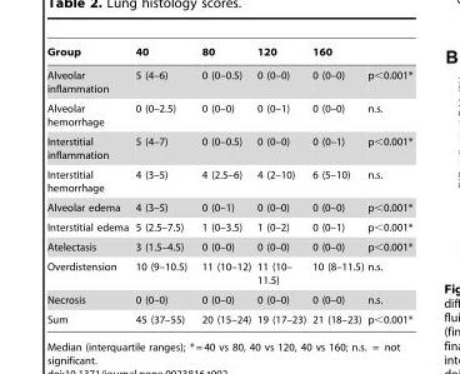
<table><thead><tr><td>Group</td><td>40</td><td>80</td><td>120</td><td>160</td><td></td></tr></thead><tbody><tr><td>Alveolar inflammation</td><td>5 (4–6)</td><td>0 (0–0.5)</td><td>0 (0–0)</td><td>0 (0–0)</td><td>p&lt;0.001*</td></tr><tr><td>Alveolar hemorrhage</td><td>0 (0–2.5)</td><td>0 (0–0)</td><td>0 (0–1)</td><td>0 (0–0)</td><td>n.s.</td></tr><tr><td>Interstitial inflammation</td><td>5 (4–7)</td><td>0 (0–0.5)</td><td>0 (0–0)</td><td>0 (0–1)</td><td>p&lt;0.001*</td></tr><tr><td>Interstitial hemorrhage</td><td>4 (3–5)</td><td>4 (2.5–6)</td><td>4 (2–10)</td><td>6 (5–10)</td><td>n.s.</td></tr><tr><td>Alveolar edema</td><td>4 (3–5)</td><td>0 (0–1)</td><td>0 (0–0)</td><td>0 (0–0)</td><td>p&lt;0.001*</td></tr><tr><td>Interstitial edema</td><td>5 (2.5–7.5)</td><td>1 (0–3.5)</td><td>1 (0–2)</td><td>0 (0–1)</td><td>p&lt;0.001*</td></tr><tr><td>Atelectasis</td><td>3 (1.5–4.5)</td><td>0 (0–0)</td><td>0 (0–0)</td><td>0 (0–0)</td><td>p&lt;0.001*</td></tr><tr><td>Overdistension</td><td>10 (9–10.5)</td><td>11 (10–12)</td><td>11 (10– 11.5)</td><td>10 (8–11.5)</td><td>n.s.</td></tr><tr><td>Necrosis</td><td>0 (0–0)</td><td>0 (0–0)</td><td>0 (0–0)</td><td>0 (0–0)</td><td>n.s.</td></tr><tr><td>Sum</td><td>45 (37–55)</td><td>20 (15–24)</td><td>19 (17–23)</td><td>21 (18–23)</td><td>p&lt;0.001*</td></tr></tbody></table>